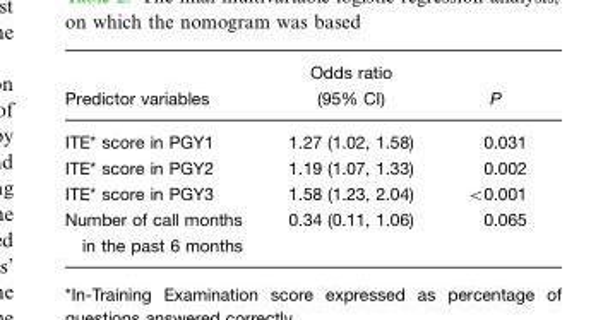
<table><thead><tr><td>Predictor variables</td><td>Odds ratio (95% CI)</td><td>P</td></tr></thead><tbody><tr><td>ITE* score in PGY1</td><td>1.27 (1.02, 1.58)</td><td>0.031</td></tr><tr><td>ITE* score in PGY2</td><td>1.19 (1.07, 1.33)</td><td>0.002</td></tr><tr><td>ITE* score in PGY3</td><td>1.58 (1.23, 2.04)</td><td>&lt;0.001</td></tr><tr><td>Number of call months in the past 6 months</td><td>0.34 (0.11, 1.06)</td><td>0.065</td></tr></tbody></table>